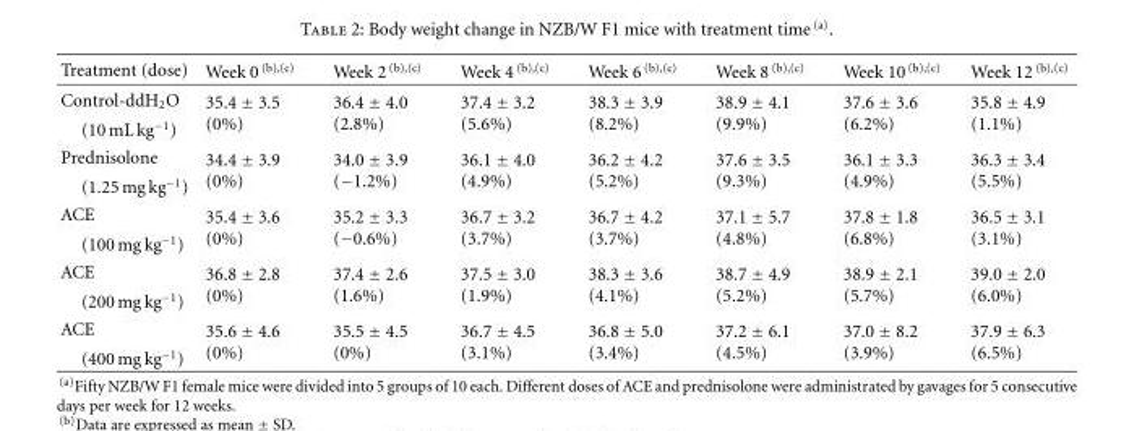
<table><thead><tr><td>Treatment (dose)</td><td>Week 0 <sup>(b),(c)</sup></td><td>Week 2 <sup>(b),(c)</sup></td><td>Week 4 <sup>(b),(c)</sup></td><td>Week 6 <sup>(b),(c)</sup></td><td>Week 8 <sup>(b),(c)</sup></td><td>Week 10 <sup>(b),(c)</sup></td><td>Week 12 <sup>(b),(c)</sup></td></tr></thead><tbody><tr><td>Control-ddH<sub>2</sub>O</td><td rowspan="2">35.4 ± 3.5 (0%)</td><td rowspan="2">36.4 ± 4.0 (2.8%)</td><td rowspan="2">37.4 ± 3.2 (5.6%)</td><td rowspan="2">38.3 ± 3.9 (8.2%)</td><td rowspan="2">38.9 ± 4.1 (9.9%)</td><td rowspan="2">37.6 ± 3.6 (6.2%)</td><td rowspan="2">35.8 ± 4.9 (1.1%)</td></tr><tr><td>(10 mL kg<sup>−1</sup>)</td></tr><tr><td>Prednisolone</td><td rowspan="2">34.4 ± 3.9 (0%)</td><td rowspan="2">34.0 ± 3.9 (−1.2%)</td><td rowspan="2">36.1 ± 4.0 (4.9%)</td><td rowspan="2">36.2 ± 4.2 (5.2%)</td><td rowspan="2">37.6 ± 3.5 (9.3%)</td><td rowspan="2">36.1 ± 3.3 (4.9%)</td><td rowspan="2">36.3 ± 3.4 (5.5%)</td></tr><tr><td>(1.25 mg kg<sup>−1</sup>)</td></tr><tr><td>ACE</td><td rowspan="2">35.4 ± 3.6 (0%)</td><td rowspan="2">35.2 ± 3.3 (−0.6%)</td><td rowspan="2">36.7 ± 3.2 (3.7%)</td><td rowspan="2">36.7 ± 4.2 (3.7%)</td><td rowspan="2">37.1 ± 5.7 (4.8%)</td><td rowspan="2">37.8 ± 1.8 (6.8%)</td><td rowspan="2">36.5 ± 3.1 (3.1%)</td></tr><tr><td>(100 mg kg<sup>−1</sup>)</td></tr><tr><td>ACE</td><td rowspan="2">36.8 ± 2.8 (0%)</td><td rowspan="2">37.4 ± 2.6 (1.6%)</td><td rowspan="2">37.5 ± 3.0 (1.9%)</td><td rowspan="2">38.3 ± 3.6 (4.1%)</td><td rowspan="2">38.7 ± 4.9 (5.2%)</td><td rowspan="2">38.9 ± 2.1 (5.7%)</td><td rowspan="2">39.0 ± 2.0 (6.0%)</td></tr><tr><td>(200 mg kg<sup>−1</sup>)</td></tr><tr><td>ACE</td><td rowspan="2">35.6 ± 4.6 (0%)</td><td rowspan="2">35.5 ± 4.5 (0%)</td><td rowspan="2">36.7 ± 4.5 (3.1%)</td><td rowspan="2">36.8 ± 5.0 (3.4%)</td><td rowspan="2">37.2 ± 6.1 (4.5%)</td><td rowspan="2">37.0 ± 8.2 (3.9%)</td><td rowspan="2">37.9 ± 6.3 (6.5%)</td></tr><tr><td>(400 mg kg<sup>−1</sup>)</td></tr></tbody></table>